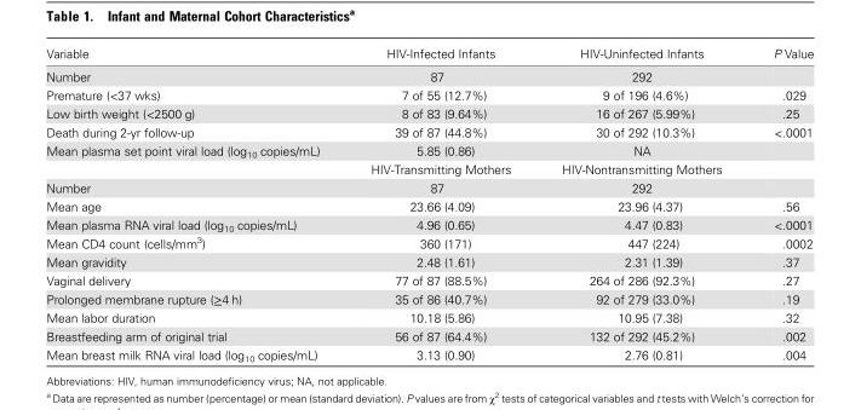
<table><thead><tr><td>Variable</td><td>HIV-Infected Infants</td><td>HIV-Uninfected Infants</td><td>P Value</td></tr></thead><tbody><tr><td>Number</td><td>87</td><td>292</td><td></td></tr><tr><td>Premature (&lt;37 wks)</td><td>7 of 55 (12.7%)</td><td>9 of 196 (4.6%)</td><td>.029</td></tr><tr><td>Low birth weight (&lt;2500 g)</td><td>8 of 83 (9.64%)</td><td>16 of 267 (5.99%)</td><td>.25</td></tr><tr><td>Death during 2-yr follow-up</td><td>39 of 87 (44.8%)</td><td>30 of 292 (10.3%)</td><td>&lt;.0001</td></tr><tr><td rowspan="2">Mean plasma set point viral load (log<sub>10</sub> copies/mL)</td><td>5.85 (0.86)</td><td>NA</td><td></td></tr><tr><td>HIV-Transmitting Mothers</td><td>HIV-Nontransmitting Mothers</td><td></td></tr><tr><td>Number</td><td>87</td><td>292</td><td></td></tr><tr><td>Mean age</td><td>23.66 (4.09)</td><td>23.96 (4.37)</td><td>.56</td></tr><tr><td>Mean plasma RNA viral load (log<sub>10</sub> copies/mL)</td><td>4.96 (0.65)</td><td>4.47 (0.83)</td><td>&lt;.0001</td></tr><tr><td>Mean CD4 count (cells/mm<sup>3</sup>)</td><td>360 (171)</td><td>447 (224)</td><td>.0002</td></tr><tr><td>Mean gravidity</td><td>2.48 (1.61)</td><td>2.31 (1.39)</td><td>.37</td></tr><tr><td>Vaginal delivery</td><td>77 of 87 (88.5%)</td><td>264 of 286 (92.3%)</td><td>.27</td></tr><tr><td>Prolonged membrane rupture (≥4 h)</td><td>35 of 86 (40.7%)</td><td>92 of 279 (33.0%)</td><td>.19</td></tr><tr><td>Mean labor duration</td><td>10.18 (5.86)</td><td>10.95 (7.38)</td><td>.32</td></tr><tr><td>Breastfeeding arm of original trial</td><td>56 of 87 (64.4%)</td><td>132 of 292 (45.2%)</td><td>.002</td></tr><tr><td>Mean breast milk RNA viral load (log<sub>10</sub> copies/mL)</td><td>3.13 (0.90)</td><td>2.76 (0.81)</td><td>.004</td></tr></tbody></table>